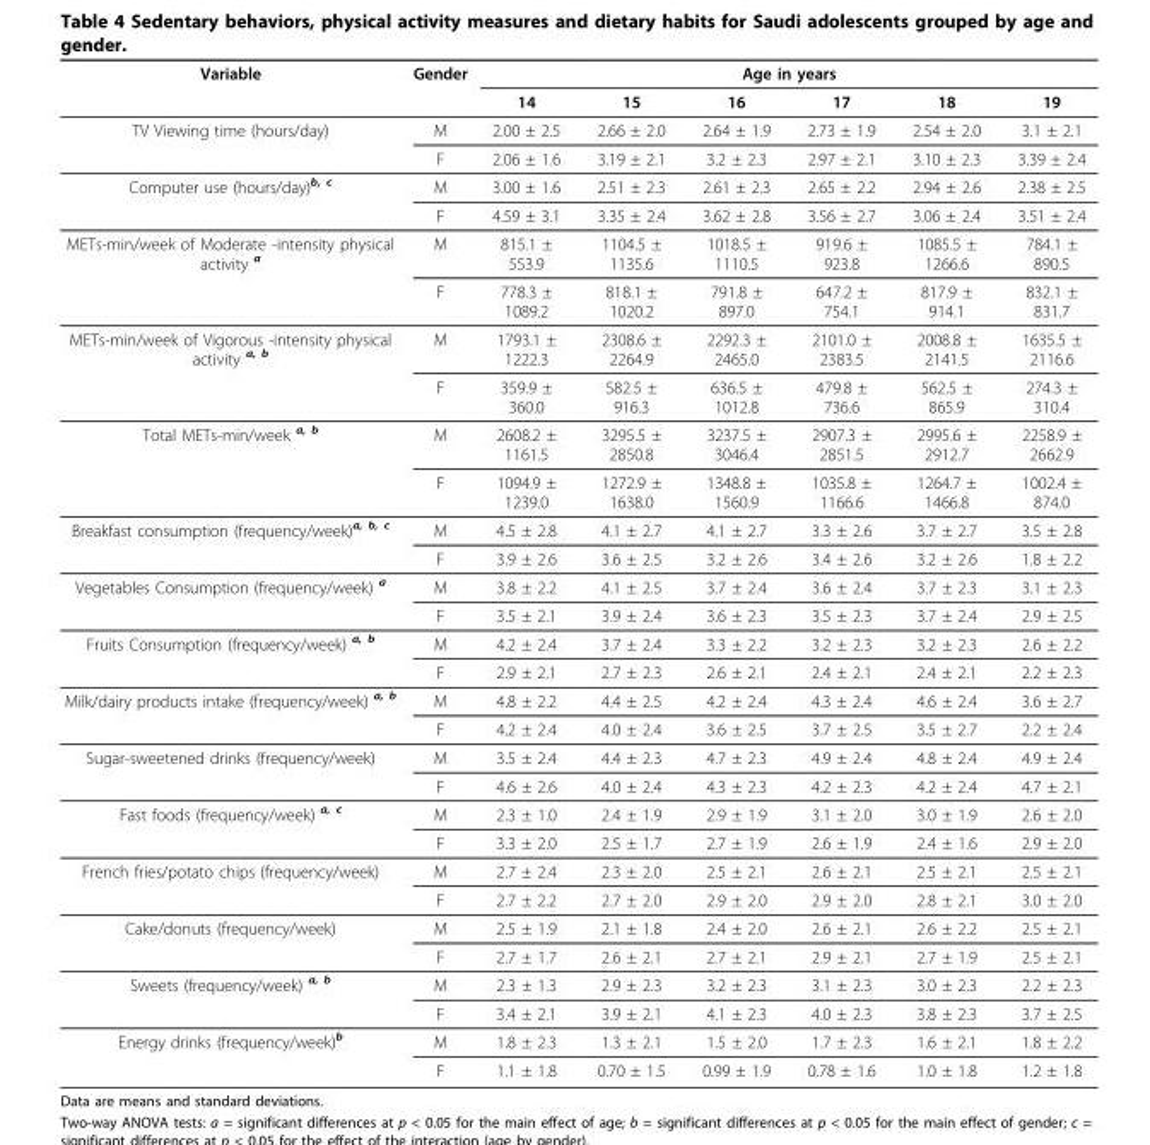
<table><thead><tr><td rowspan="2">Variable</td><td rowspan="2">Gender</td><td colspan="6">Age in years</td></tr><tr><td>14</td><td>15</td><td>16</td><td>17</td><td>18</td><td>19</td></tr></thead><tbody><tr><td rowspan="2">TV Viewing time (hours/day)</td><td>M</td><td>2.00 ± 2.5</td><td>2.66 ± 2.0</td><td>2.64 ± 1.9</td><td>2.73 ± 1.9</td><td>2.54 ± 2.0</td><td>3.1 ± 2.1</td></tr><tr><td>F</td><td>2.06 ± 1.6</td><td>3.19 ± 2.1</td><td>3.2 ± 2.3</td><td>2.97 ± 2.1</td><td>3.10 ± 2.3</td><td>3.39 ± 2.4</td></tr><tr><td rowspan="2">Computer use (hours/day)<sup>b, c</sup></td><td>M</td><td>3.00 ± 1.6</td><td>2.51 ± 2.3</td><td>2.61 ± 2.3</td><td>2.65 ± 2.2</td><td>2.94 ± 2.6</td><td>2.38 ± 2.5</td></tr><tr><td>F</td><td>4.59 ± 3.1</td><td>3.35 ± 2.4</td><td>3.62 ± 2.8</td><td>3.56 ± 2.7</td><td>3.06 ± 2.4</td><td>3.51 ± 2.4</td></tr><tr><td rowspan="2">METs-min/week of Moderate -intensity physical activity <sup>a</sup></td><td>M</td><td>815.1 ± 553.9</td><td>1104.5 ± 1135.6</td><td>1018.5 ± 1110.5</td><td>919.6 ± 923.8</td><td>1085.5 ± 1266.6</td><td>784.1 ± 890.5</td></tr><tr><td>F</td><td>778.3 ± 1089.2</td><td>818.1 ± 1020.2</td><td>791.8 ± 897.0</td><td>647.2 ± 754.1</td><td>817.9 ± 914.1</td><td>832.1 ± 831.7</td></tr><tr><td rowspan="2">METs-min/week of Vigorous -intensity physical activity <sup>a, b</sup></td><td>M</td><td>1793.1 ± 1222.3</td><td>2308.6 ± 2264.9</td><td>2292.3 ± 2465.0</td><td>2101.0 ± 2383.5</td><td>2008.8 ± 2141.5</td><td>1635.5 ± 2116.6</td></tr><tr><td>F</td><td>359.9 ± 360.0</td><td>582.5 ± 916.3</td><td>636.5 ± 1012.8</td><td>479.8 ± 736.6</td><td>562.5 ± 865.9</td><td>274.3 ± 310.4</td></tr><tr><td rowspan="2">Total METs-min/week <sup>a, b</sup></td><td>M</td><td>2608.2 ± 1161.5</td><td>3295.5 ± 2850.8</td><td>3237.5 ± 3046.4</td><td>2907.3 ± 2851.5</td><td>2995.6 ± 2912.7</td><td>2258.9 ± 2662.9</td></tr><tr><td>F</td><td>1094.9 ± 1239.0</td><td>1272.9 ± 1638.0</td><td>1348.8 ± 1560.9</td><td>1035.8 ± 1166.6</td><td>1264.7 ± 1466.8</td><td>1002.4 ± 874.0</td></tr><tr><td rowspan="2">Breakfast consumption (frequency/week)<sup>a, b, c</sup></td><td>M</td><td>4.5 ± 2.8</td><td>4.1 ± 2.7</td><td>4.1 ± 2.7</td><td>3.3 ± 2.6</td><td>3.7 ± 2.7</td><td>3.5 ± 2.8</td></tr><tr><td>F</td><td>3.9 ± 2.6</td><td>3.6 ± 2.5</td><td>3.2 ± 2.6</td><td>3.4 ± 2.6</td><td>3.2 ± 2.6</td><td>1.8 ± 2.2</td></tr><tr><td rowspan="2">Vegetables Consumption (frequency/week) <sup>a</sup></td><td>M</td><td>3.8 ± 2.2</td><td>4.1 ± 2.5</td><td>3.7 ± 2.4</td><td>3.6 ± 2.4</td><td>3.7 ± 2.3</td><td>3.1 ± 2.3</td></tr><tr><td>F</td><td>3.5 ± 2.1</td><td>3.9 ± 2.4</td><td>3.6 ± 2.3</td><td>3.5 ± 2.3</td><td>3.7 ± 2.4</td><td>2.9 ± 2.5</td></tr><tr><td rowspan="2">Fruits Consumption (frequency/week) <sup>a, b</sup></td><td>M</td><td>4.2 ± 2.4</td><td>3.7 ± 2.4</td><td>3.3 ± 2.2</td><td>3.2 ± 2.3</td><td>3.2 ± 2.3</td><td>2.6 ± 2.2</td></tr><tr><td>F</td><td>2.9 ± 2.1</td><td>2.7 ± 2.3</td><td>2.6 ± 2.1</td><td>2.4 ± 2.1</td><td>2.4 ± 2.1</td><td>2.2 ± 2.3</td></tr><tr><td rowspan="2">Milk/dairy products intake (frequency/week) <sup>a, b</sup></td><td>M</td><td>4.8 ± 2.2</td><td>4.4 ± 2.5</td><td>4.2 ± 2.4</td><td>4.3 ± 2.4</td><td>4.6 ± 2.4</td><td>3.6 ± 2.7</td></tr><tr><td>F</td><td>4.2 ± 2.4</td><td>4.0 ± 2.4</td><td>3.6 ± 2.5</td><td>3.7 ± 2.5</td><td>3.5 ± 2.7</td><td>2.2 ± 2.4</td></tr><tr><td rowspan="2">Sugar-sweetened drinks (frequency/week)</td><td>M</td><td>3.5 ± 2.4</td><td>4.4 ± 2.3</td><td>4.7 ± 2.3</td><td>4.9 ± 2.4</td><td>4.8 ± 2.4</td><td>4.9 ± 2.4</td></tr><tr><td>F</td><td>4.6 ± 2.6</td><td>4.0 ± 2.4</td><td>4.3 ± 2.3</td><td>4.2 ± 2.3</td><td>4.2 ± 2.4</td><td>4.7 ± 2.1</td></tr><tr><td rowspan="2">Fast foods (frequency/week) <sup>a, c</sup></td><td>M</td><td>2.3 ± 1.0</td><td>2.4 ± 1.9</td><td>2.9 ± 1.9</td><td>3.1 ± 2.0</td><td>3.0 ± 1.9</td><td>2.6 ± 2.0</td></tr><tr><td>F</td><td>3.3 ± 2.0</td><td>2.5 ± 1.7</td><td>2.7 ± 1.9</td><td>2.6 ± 1.9</td><td>2.4 ± 1.6</td><td>2.9 ± 2.0</td></tr><tr><td rowspan="2">French fries/potato chips (frequency/week)</td><td>M</td><td>2.7 ± 2.4</td><td>2.3 ± 2.0</td><td>2.5 ± 2.1</td><td>2.6 ± 2.1</td><td>2.5 ± 2.1</td><td>2.5 ± 2.1</td></tr><tr><td>F</td><td>2.7 ± 2.2</td><td>2.7 ± 2.0</td><td>2.9 ± 2.0</td><td>2.9 ± 2.0</td><td>2.8 ± 2.1</td><td>3.0 ± 2.0</td></tr><tr><td rowspan="2">Cake/donuts (frequency/week)</td><td>M</td><td>2.5 ± 1.9</td><td>2.1 ± 1.8</td><td>2.4 ± 2.0</td><td>2.6 ± 2.1</td><td>2.6 ± 2.2</td><td>2.5 ± 2.1</td></tr><tr><td>F</td><td>2.7 ± 1.7</td><td>2.6 ± 2.1</td><td>2.7 ± 2.1</td><td>2.9 ± 2.1</td><td>2.7 ± 1.9</td><td>2.5 ± 2.1</td></tr><tr><td rowspan="2">Sweets (frequency/week) <sup>a, b</sup></td><td>M</td><td>2.3 ± 1.3</td><td>2.9 ± 2.3</td><td>3.2 ± 2.3</td><td>3.1 ± 2.3</td><td>3.0 ± 2.3</td><td>2.2 ± 2.3</td></tr><tr><td>F</td><td>3.4 ± 2.1</td><td>3.9 ± 2.1</td><td>4.1 ± 2.3</td><td>4.0 ± 2.3</td><td>3.8 ± 2.3</td><td>3.7 ± 2.5</td></tr><tr><td rowspan="2">Energy drinks (frequency/week)<sup>b</sup></td><td>M</td><td>1.8 ± 2.3</td><td>1.3 ± 2.1</td><td>1.5 ± 2.0</td><td>1.7 ± 2.3</td><td>1.6 ± 2.1</td><td>1.8 ± 2.2</td></tr><tr><td>F</td><td>1.1 ± 1.8</td><td>0.70 ± 1.5</td><td>0.99 ± 1.9</td><td>0.78 ± 1.6</td><td>1.0 ± 1.8</td><td>1.2 ± 1.8</td></tr></tbody></table>